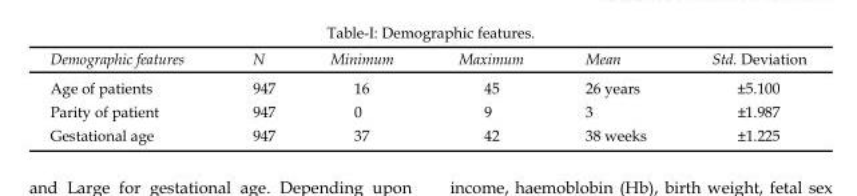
<table><thead><tr><td>Demographic features</td><td>N</td><td>Minimum</td><td>Maximum</td><td>Mean</td><td>Std. Deviation</td></tr></thead><tbody><tr><td>Age of patients</td><td>947</td><td>16</td><td>45</td><td>26 years</td><td>±5.100</td></tr><tr><td>Parity of patient</td><td>947</td><td>0</td><td>9</td><td>3</td><td>±1.987</td></tr><tr><td>Gestational age</td><td>947</td><td>37</td><td>42</td><td>38 weeks</td><td>±1.225</td></tr></tbody></table>